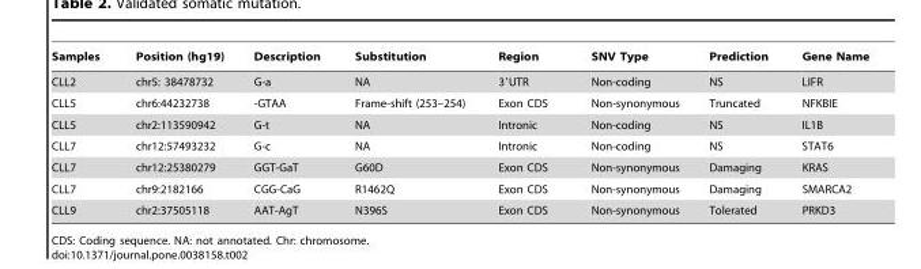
<table><thead><tr><td>Samples</td><td>Position (hg19)</td><td>Description</td><td>Substitution</td><td>Region</td><td>SNV Type</td><td>Prediction</td><td>Gene Name</td></tr></thead><tbody><tr><td>CLL2</td><td>chr5: 38478732</td><td>G-a</td><td>NA</td><td>3′UTR</td><td>Non-coding</td><td>NS</td><td>LIFR</td></tr><tr><td>CLL5</td><td>chr6:44232738</td><td>-GTAA</td><td>Frame-shift (253–254)</td><td>Exon CDS</td><td>Non-synonymous</td><td>Truncated</td><td>NFKBIE</td></tr><tr><td>CLL5</td><td>chr2:113590942</td><td>G-t</td><td>NA</td><td>Intronic</td><td>Non-coding</td><td>NS</td><td>IL1B</td></tr><tr><td>CLL7</td><td>chr12:57493232</td><td>G-c</td><td>NA</td><td>Intronic</td><td>Non-coding</td><td>NS</td><td>STAT6</td></tr><tr><td>CLL7</td><td>chr12:25380279</td><td>GGT-GaT</td><td>G60D</td><td>Exon CDS</td><td>Non-synonymous</td><td>Damaging</td><td>KRAS</td></tr><tr><td>CLL7</td><td>chr9:2182166</td><td>CGG-CaG</td><td>R1462Q</td><td>Exon CDS</td><td>Non-synonymous</td><td>Damaging</td><td>SMARCA2</td></tr><tr><td>CLL9</td><td>chr2:37505118</td><td>AAT-AgT</td><td>N396S</td><td>Exon CDS</td><td>Non-synonymous</td><td>Tolerated</td><td>PRKD3</td></tr></tbody></table>